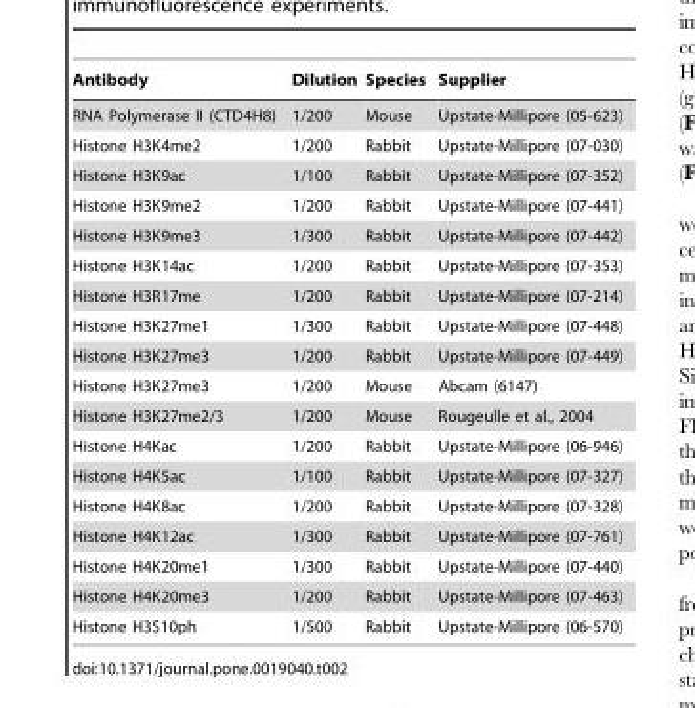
<table><thead><tr><td>Antibody</td><td>Dilution</td><td>Species</td><td>Supplier</td></tr></thead><tbody><tr><td>RNA Polymerase II (CTD4H8)</td><td>1/200</td><td>Mouse</td><td>Upstate-Millipore (05-623)</td></tr><tr><td>Histone H3K4me2</td><td>1/200</td><td>Rabbit</td><td>Upstate-Millipore (07-030)</td></tr><tr><td>Histone H3K9ac</td><td>1/100</td><td>Rabbit</td><td>Upstate-Millipore (07-352)</td></tr><tr><td>Histone H3K9me2</td><td>1/200</td><td>Rabbit</td><td>Upstate-Millipore (07-441)</td></tr><tr><td>Histone H3K9me3</td><td>1/300</td><td>Rabbit</td><td>Upstate-Millipore (07-442)</td></tr><tr><td>Histone H3K14ac</td><td>1/200</td><td>Rabbit</td><td>Upstate-Millipore (07-353)</td></tr><tr><td>Histone H3R17me</td><td>1/200</td><td>Rabbit</td><td>Upstate-Millipore (07-214)</td></tr><tr><td>Histone H3K27me1</td><td>1/300</td><td>Rabbit</td><td>Upstate-Millipore (07-448)</td></tr><tr><td>Histone H3K27me3</td><td>1/200</td><td>Rabbit</td><td>Upstate-Millipore (07-449)</td></tr><tr><td>Histone H3K27me3</td><td>1/200</td><td>Mouse</td><td>Abcam (6147)</td></tr><tr><td>Histone H3K27me2/3</td><td>1/200</td><td>Mouse</td><td>Rougeulle et al., 2004</td></tr><tr><td>Histone H4Kac</td><td>1/200</td><td>Rabbit</td><td>Upstate-Millipore (06-946)</td></tr><tr><td>Histone H4K5ac</td><td>1/100</td><td>Rabbit</td><td>Upstate-Millipore (07-327)</td></tr><tr><td>Histone H4K8ac</td><td>1/200</td><td>Rabbit</td><td>Upstate-Millipore (07-328)</td></tr><tr><td>Histone H4K12ac</td><td>1/300</td><td>Rabbit</td><td>Upstate-Millipore (07-761)</td></tr><tr><td>Histone H4K20me1</td><td>1/300</td><td>Rabbit</td><td>Upstate-Millipore (07-440)</td></tr><tr><td>Histone H4K20me3</td><td>1/200</td><td>Rabbit</td><td>Upstate-Millipore (07-463)</td></tr><tr><td>Histone H3S10ph</td><td>1/500</td><td>Rabbit</td><td>Upstate-Millipore (06-570)</td></tr></tbody></table>